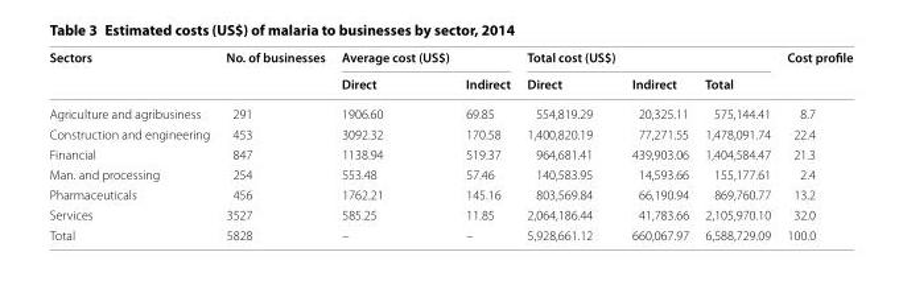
<table><thead><tr><td rowspan="2">Sectors</td><td rowspan="2">No. of businesses</td><td colspan="2">Average cost (US$)</td><td colspan="3">Total cost (US$)</td><td rowspan="2">Cost profile</td></tr><tr><td>Direct</td><td>Indirect</td><td>Direct</td><td>Indirect</td><td>Total</td></tr></thead><tbody><tr><td>Agriculture and agribusiness</td><td>291</td><td>1906.60</td><td>69.85</td><td>554,819.29</td><td>20,325.11</td><td>575,144.41</td><td>8.7</td></tr><tr><td>Construction and engineering</td><td>453</td><td>3092.32</td><td>170.58</td><td>1,400,820.19</td><td>77,271.55</td><td>1,478,091.74</td><td>22.4</td></tr><tr><td>Financial</td><td>847</td><td>1138.94</td><td>519.37</td><td>964,681.41</td><td>439,903.06</td><td>1,404,584.47</td><td>21.3</td></tr><tr><td>Man. and processing</td><td>254</td><td>553.48</td><td>57.46</td><td>140,583.95</td><td>14,593.66</td><td>155,177.61</td><td>2.4</td></tr><tr><td>Pharmaceuticals</td><td>456</td><td>1762.21</td><td>145.16</td><td>803,569.84</td><td>66,190.94</td><td>869,760.77</td><td>13.2</td></tr><tr><td>Services</td><td>3527</td><td>585.25</td><td>11.85</td><td>2,064,186.44</td><td>41,783.66</td><td>2,105,970.10</td><td>32.0</td></tr><tr><td>Total</td><td>5828</td><td>–</td><td>–</td><td>5,928,661.12</td><td>660,067.97</td><td>6,588,729.09</td><td>100.0</td></tr></tbody></table>